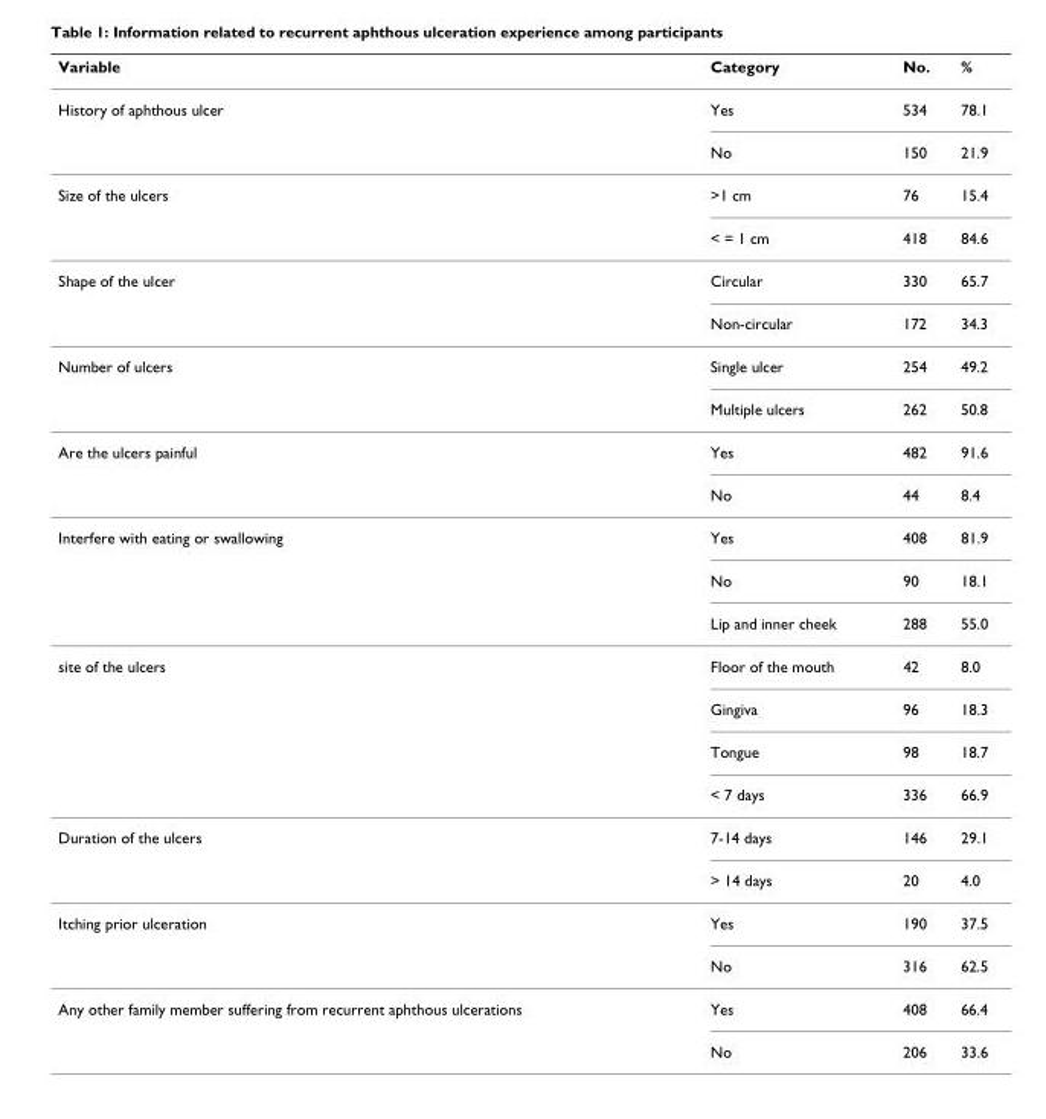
<table><thead><tr><td>Variable</td><td>Category</td><td>No.</td><td>%</td></tr></thead><tbody><tr><td rowspan="2">History of aphthous ulcer</td><td>Yes</td><td>534</td><td>78.1</td></tr><tr><td>No</td><td>150</td><td>21.9</td></tr><tr><td rowspan="2">Size of the ulcers</td><td>&gt;1 cm</td><td>76</td><td>15.4</td></tr><tr><td>&lt; = 1 cm</td><td>418</td><td>84.6</td></tr><tr><td rowspan="2">Shape of the ulcer</td><td>Circular</td><td>330</td><td>65.7</td></tr><tr><td>Non-circular</td><td>172</td><td>34.3</td></tr><tr><td rowspan="2">Number of ulcers</td><td>Single ulcer</td><td>254</td><td>49.2</td></tr><tr><td>Multiple ulcers</td><td>262</td><td>50.8</td></tr><tr><td rowspan="2">Are the ulcers painful</td><td>Yes</td><td>482</td><td>91.6</td></tr><tr><td>No</td><td>44</td><td>8.4</td></tr><tr><td rowspan="3">Interfere with eating or swallowing</td><td>Yes</td><td>408</td><td>81.9</td></tr><tr><td>No</td><td>90</td><td>18.1</td></tr><tr><td>Lip and inner cheek</td><td>288</td><td>55.0</td></tr><tr><td rowspan="4">site of the ulcers</td><td>Floor of the mouth</td><td>42</td><td>8.0</td></tr><tr><td>Gingiva</td><td>96</td><td>18.3</td></tr><tr><td>Tongue</td><td>98</td><td>18.7</td></tr><tr><td>&lt; 7 days</td><td>336</td><td>66.9</td></tr><tr><td rowspan="2">Duration of the ulcers</td><td>7-14 days</td><td>146</td><td>29.1</td></tr><tr><td>&gt; 14 days</td><td>20</td><td>4.0</td></tr><tr><td rowspan="2">Itching prior ulceration</td><td>Yes</td><td>190</td><td>37.5</td></tr><tr><td>No</td><td>316</td><td>62.5</td></tr><tr><td rowspan="2">Any other family member suffering from recurrent aphthous ulcerations</td><td>Yes</td><td>408</td><td>66.4</td></tr><tr><td>No</td><td>206</td><td>33.6</td></tr></tbody></table>